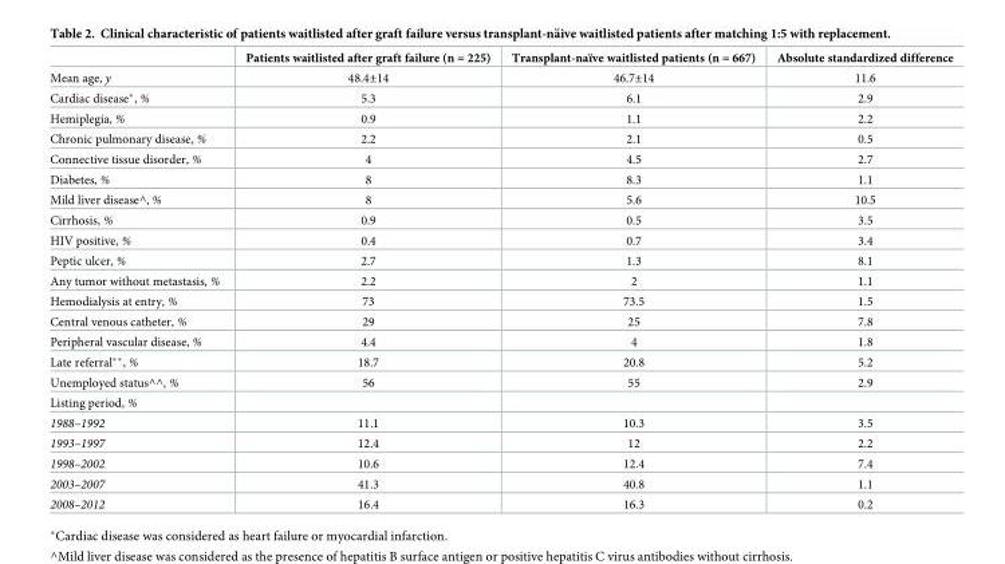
<table><thead><tr><td></td><td>Patients waitlisted after graft failure (n = 225)</td><td>Transplant-naïve waitlisted patients (n = 667)</td><td>Absolute standardized difference</td></tr></thead><tbody><tr><td>Mean age, y</td><td>48.4±14</td><td>46.7±14</td><td>11.6</td></tr><tr><td>Cardiac disease*, %</td><td>5.3</td><td>6.1</td><td>2.9</td></tr><tr><td>Hemiplegia, %</td><td>0.9</td><td>1.1</td><td>2.2</td></tr><tr><td>Chronic pulmonary disease, %</td><td>2.2</td><td>2.1</td><td>0.5</td></tr><tr><td>Connective tissue disorder, %</td><td>4</td><td>4.5</td><td>2.7</td></tr><tr><td>Diabetes, %</td><td>8</td><td>8.3</td><td>1.1</td></tr><tr><td>Mild liver disease^, %</td><td>8</td><td>5.6</td><td>10.5</td></tr><tr><td>Cirrhosis, %</td><td>0.9</td><td>0.5</td><td>3.5</td></tr><tr><td>HIV positive, %</td><td>0.4</td><td>0.7</td><td>3.4</td></tr><tr><td>Peptic ulcer, %</td><td>2.7</td><td>1.3</td><td>8.1</td></tr><tr><td>Any tumor without metastasis, %</td><td>2.2</td><td>2</td><td>1.1</td></tr><tr><td>Hemodialysis at entry, %</td><td>73</td><td>73.5</td><td>1.5</td></tr><tr><td>Central venous catheter, %</td><td>29</td><td>25</td><td>7.8</td></tr><tr><td>Peripheral vascular disease, %</td><td>4.4</td><td>4</td><td>1.8</td></tr><tr><td>Late referral**, %</td><td>18.7</td><td>20.8</td><td>5.2</td></tr><tr><td>Unemployed status^^, %</td><td>56</td><td>55</td><td>2.9</td></tr><tr><td colspan="4">Listing period, %</td></tr><tr><td>1988–1992</td><td>11.1</td><td>10.3</td><td>3.5</td></tr><tr><td>1993–1997</td><td>12.4</td><td>12</td><td>2.2</td></tr><tr><td>1998–2002</td><td>10.6</td><td>12.4</td><td>7.4</td></tr><tr><td>2003–2007</td><td>41.3</td><td>40.8</td><td>1.1</td></tr><tr><td>2008–2012</td><td>16.4</td><td>16.3</td><td>0.2</td></tr></tbody></table>